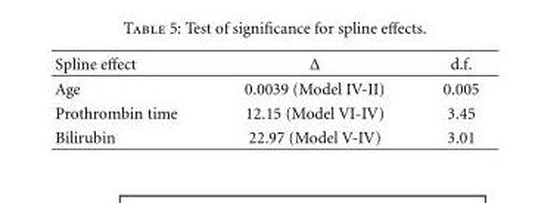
<table><thead><tr><td>Spline effect</td><td>Δ</td><td>d.f.</td></tr></thead><tbody><tr><td>Age</td><td>0.0039 (Model IV-II)</td><td>0.005</td></tr><tr><td>Prothrombin time</td><td>12.15 (Model VI-IV)</td><td>3.45</td></tr><tr><td>Bilirubin</td><td>22.97 (Model V-IV)</td><td>3.01</td></tr></tbody></table>